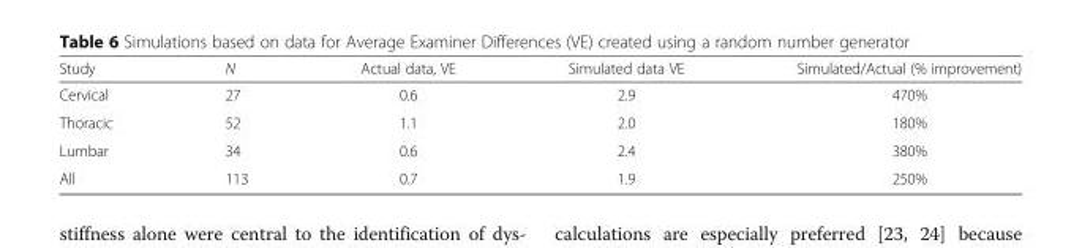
<table><thead><tr><td>Study</td><td>N</td><td>Actual data, VE</td><td>Simulated data VE</td><td>Simulated/Actual (% improvement)</td></tr></thead><tbody><tr><td>Cervical</td><td>27</td><td>0.6</td><td>2.9</td><td>470%</td></tr><tr><td>Thoracic</td><td>52</td><td>1.1</td><td>2.0</td><td>180%</td></tr><tr><td>Lumbar</td><td>34</td><td>0.6</td><td>2.4</td><td>380%</td></tr><tr><td>All</td><td>113</td><td>0.7</td><td>1.9</td><td>250%</td></tr></tbody></table>